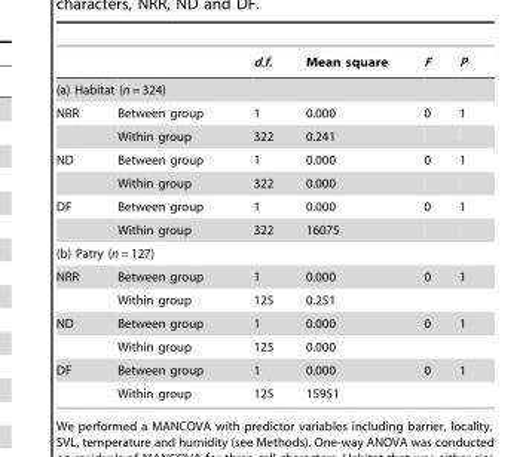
<table><thead><tr><td></td><td></td><td>d.f.</td><td>Mean square</td><td>F</td><td>P</td></tr></thead><tbody><tr><td colspan="6">(a) Habitat (n = 324)</td></tr><tr><td rowspan="2">NRR</td><td>Between group</td><td>1</td><td>0.000</td><td>0</td><td>1</td></tr><tr><td>Within group</td><td>322</td><td>0.241</td><td></td><td></td></tr><tr><td rowspan="2">ND</td><td>Between group</td><td>1</td><td>0.000</td><td>0</td><td>1</td></tr><tr><td>Within group</td><td>322</td><td>0.000</td><td></td><td></td></tr><tr><td rowspan="2">DF</td><td>Between group</td><td>1</td><td>0.000</td><td>0</td><td>1</td></tr><tr><td>Within group</td><td>322</td><td>16075</td><td></td><td></td></tr><tr><td colspan="6">(b) Patry (n = 127)</td></tr><tr><td rowspan="2">NRR</td><td>Between group</td><td>1</td><td>0.000</td><td>0</td><td>1</td></tr><tr><td>Within group</td><td>125</td><td>0.251</td><td></td><td></td></tr><tr><td rowspan="2">ND</td><td>Between group</td><td>1</td><td>0.000</td><td>0</td><td>1</td></tr><tr><td>Within group</td><td>125</td><td>0.000</td><td></td><td></td></tr><tr><td rowspan="2">DF</td><td>Between group</td><td>1</td><td>0.000</td><td>0</td><td>1</td></tr><tr><td>Within group</td><td>125</td><td>15951</td><td></td><td></td></tr></tbody></table>